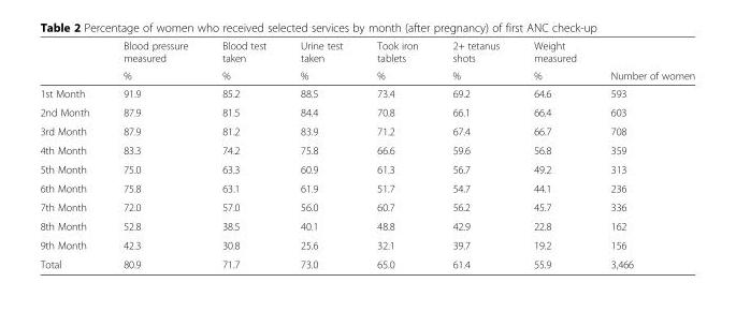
<table><thead><tr><td rowspan="2"></td><td rowspan="2">Blood pressure measured %</td><td rowspan="2">Blood test taken %</td><td rowspan="2">Urine test taken %</td><td rowspan="2">Took iron tablets %</td><td rowspan="2">2+ tetanus shots %</td><td rowspan="2">Weight measured %</td><td rowspan="2">Number of women</td></tr><tr></tr></thead><tbody><tr><td>1st Month</td><td>91.9</td><td>85.2</td><td>88.5</td><td>73.4</td><td>69.2</td><td>64.6</td><td>593</td></tr><tr><td>2nd Month</td><td>87.9</td><td>81.5</td><td>84.4</td><td>70.8</td><td>66.1</td><td>66.4</td><td>603</td></tr><tr><td>3rd Month</td><td>87.9</td><td>81.2</td><td>83.9</td><td>71.2</td><td>67.4</td><td>66.7</td><td>708</td></tr><tr><td>4th Month</td><td>83.3</td><td>74.2</td><td>75.8</td><td>66.6</td><td>59.6</td><td>56.8</td><td>359</td></tr><tr><td>5th Month</td><td>75.0</td><td>63.3</td><td>60.9</td><td>61.3</td><td>56.7</td><td>49.2</td><td>313</td></tr><tr><td>6th Month</td><td>75.8</td><td>63.1</td><td>61.9</td><td>51.7</td><td>54.7</td><td>44.1</td><td>236</td></tr><tr><td>7th Month</td><td>72.0</td><td>57.0</td><td>56.0</td><td>60.7</td><td>56.2</td><td>45.7</td><td>336</td></tr><tr><td>8th Month</td><td>52.8</td><td>38.5</td><td>40.1</td><td>48.8</td><td>42.9</td><td>22.8</td><td>162</td></tr><tr><td>9th Month</td><td>42.3</td><td>30.8</td><td>25.6</td><td>32.1</td><td>39.7</td><td>19.2</td><td>156</td></tr><tr><td>Total</td><td>80.9</td><td>71.7</td><td>73.0</td><td>65.0</td><td>61.4</td><td>55.9</td><td>3,466</td></tr></tbody></table>